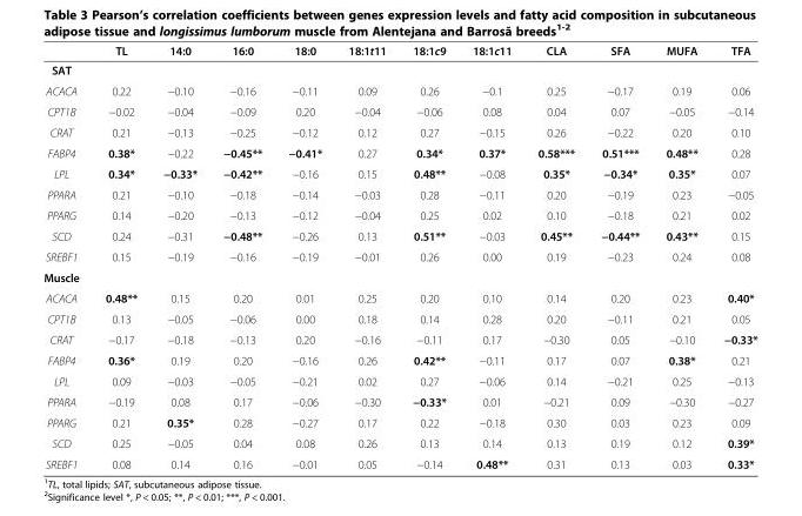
<table><thead><tr><td></td><td>TL</td><td>14:0</td><td>16:0</td><td>18:0</td><td>18:1t11</td><td>18:1c9</td><td>18:1c11</td><td>CLA</td><td>SFA</td><td>MUFA</td><td>TFA</td></tr></thead><tbody><tr><td colspan="12">SAT</td></tr><tr><td>ACACA</td><td>0.22</td><td>−0.10</td><td>−0.16</td><td>−0.11</td><td>0.09</td><td>0.26</td><td>−0.1</td><td>0.25</td><td>−0.17</td><td>0.19</td><td>0.06</td></tr><tr><td>CPT1B</td><td>−0.02</td><td>−0.04</td><td>−0.09</td><td>0.20</td><td>−0.04</td><td>−0.06</td><td>0.08</td><td>0.04</td><td>0.07</td><td>−0.05</td><td>−0.14</td></tr><tr><td>CRAT</td><td>0.21</td><td>−0.13</td><td>−0.25</td><td>−0.12</td><td>0.12</td><td>0.27</td><td>−0.15</td><td>0.26</td><td>−0.22</td><td>0.20</td><td>0.10</td></tr><tr><td>FABP4</td><td>0.38*</td><td>−0.22</td><td>−0.45**</td><td>−0.41*</td><td>0.27</td><td>0.34*</td><td>0.37*</td><td>0.58***</td><td>0.51***</td><td>0.48**</td><td>0.28</td></tr><tr><td>LPL</td><td>0.34*</td><td>−0.33*</td><td>−0.42**</td><td>−0.16</td><td>0.15</td><td>0.48**</td><td>−0.08</td><td>0.35*</td><td>−0.34*</td><td>0.35*</td><td>0.07</td></tr><tr><td>PPARA</td><td>0.21</td><td>−0.10</td><td>−0.18</td><td>−0.14</td><td>−0.03</td><td>0.28</td><td>−0.11</td><td>0.20</td><td>−0.19</td><td>0.23</td><td>−0.05</td></tr><tr><td>PPARG</td><td>0.14</td><td>−0.20</td><td>−0.13</td><td>−0.12</td><td>−0.04</td><td>0.25</td><td>0.02</td><td>0.10</td><td>−0.18</td><td>0.21</td><td>0.02</td></tr><tr><td>SCD</td><td>0.24</td><td>−0.31</td><td>−0.48**</td><td>−0.26</td><td>0.13</td><td>0.51**</td><td>−0.03</td><td>0.45**</td><td>−0.44**</td><td>0.43**</td><td>0.15</td></tr><tr><td>SREBF1</td><td>0.15</td><td>−0.19</td><td>−0.16</td><td>−0.19</td><td>−0.01</td><td>0.26</td><td>0.00</td><td>0.19</td><td>−0.23</td><td>0.24</td><td>0.08</td></tr><tr><td colspan="12">Muscle</td></tr><tr><td>ACACA</td><td>0.48**</td><td>0.15</td><td>0.20</td><td>0.01</td><td>0.25</td><td>0.20</td><td>0.10</td><td>0.14</td><td>0.20</td><td>0.23</td><td>0.40*</td></tr><tr><td>CPT1B</td><td>0.13</td><td>−0.05</td><td>−0.06</td><td>0.00</td><td>0.18</td><td>0.14</td><td>0.28</td><td>0.20</td><td>−0.11</td><td>0.21</td><td>0.05</td></tr><tr><td>CRAT</td><td>−0.17</td><td>−0.18</td><td>−0.13</td><td>0.20</td><td>−0.16</td><td>−0.11</td><td>0.17</td><td>−0.30</td><td>0.05</td><td>−0.10</td><td>−0.33*</td></tr><tr><td>FABP4</td><td>0.36*</td><td>0.19</td><td>0.20</td><td>−0.16</td><td>0.26</td><td>0.42**</td><td>−0.11</td><td>0.17</td><td>0.07</td><td>0.38*</td><td>0.21</td></tr><tr><td>LPL</td><td>0.09</td><td>−0.03</td><td>−0.05</td><td>−0.21</td><td>0.02</td><td>0.27</td><td>−0.06</td><td>0.14</td><td>−0.21</td><td>0.25</td><td>−0.13</td></tr><tr><td>PPARA</td><td>−0.19</td><td>0.08</td><td>0.17</td><td>−0.06</td><td>−0.30</td><td>−0.33*</td><td>0.01</td><td>−0.21</td><td>0.09</td><td>−0.30</td><td>−0.27</td></tr><tr><td>PPARG</td><td>0.21</td><td>0.35*</td><td>0.28</td><td>−0.27</td><td>0.17</td><td>0.22</td><td>−0.18</td><td>0.30</td><td>0.03</td><td>0.23</td><td>0.09</td></tr><tr><td>SCD</td><td>0.25</td><td>−0.05</td><td>0.04</td><td>0.08</td><td>0.26</td><td>0.13</td><td>0.14</td><td>0.13</td><td>0.19</td><td>0.12</td><td>0.39*</td></tr><tr><td>SREBF1</td><td>0.08</td><td>0.14</td><td>0.16</td><td>−0.01</td><td>0.05</td><td>−0.14</td><td>0.48**</td><td>0.31</td><td>0.13</td><td>0.03</td><td>0.33*</td></tr></tbody></table>